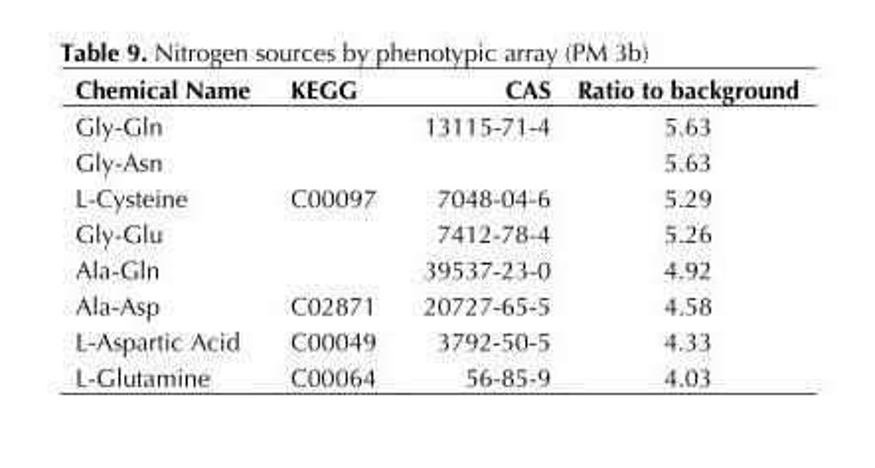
<table><thead><tr><td>Chemical Name</td><td>KEGG</td><td>CAS</td><td>Ratio to background</td></tr></thead><tbody><tr><td>Gly-Gln</td><td></td><td>13115-71-4</td><td>5.63</td></tr><tr><td>Gly-Asn</td><td></td><td></td><td>5.63</td></tr><tr><td>L-Cysteine</td><td>C00097</td><td>7048-04-6</td><td>5.29</td></tr><tr><td>Gly-Glu</td><td></td><td>7412-78-4</td><td>5.26</td></tr><tr><td>Ala-Gln</td><td></td><td>39537-23-0</td><td>4.92</td></tr><tr><td>Ala-Asp</td><td>C02871</td><td>20727-65-5</td><td>4.58</td></tr><tr><td>L-Aspartic Acid</td><td>C00049</td><td>3792-50-5</td><td>4.33</td></tr><tr><td>L-Glutamine</td><td>C00064</td><td>56-85-9</td><td>4.03</td></tr></tbody></table>